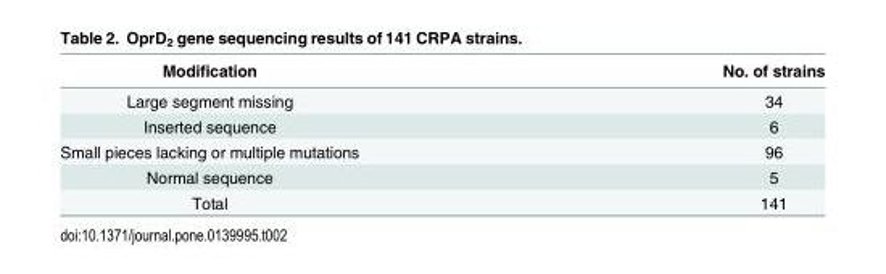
<table><thead><tr><td>Modification</td><td>No. of strains</td></tr></thead><tbody><tr><td>Large segment missing</td><td>34</td></tr><tr><td>Inserted sequence</td><td>6</td></tr><tr><td>Small pieces lacking or multiple mutations</td><td>96</td></tr><tr><td>Normal sequence</td><td>5</td></tr><tr><td>Total</td><td>141</td></tr></tbody></table>